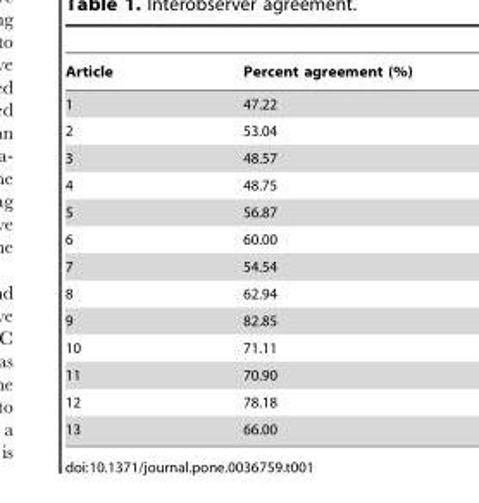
<table><thead><tr><td>Article</td><td>Percent agreement (%)</td></tr></thead><tbody><tr><td>1</td><td>47.22</td></tr><tr><td>2</td><td>53.04</td></tr><tr><td>3</td><td>48.57</td></tr><tr><td>4</td><td>48.75</td></tr><tr><td>5</td><td>56.87</td></tr><tr><td>6</td><td>60.00</td></tr><tr><td>7</td><td>54.54</td></tr><tr><td>8</td><td>62.94</td></tr><tr><td>9</td><td>82.85</td></tr><tr><td>10</td><td>71.11</td></tr><tr><td>11</td><td>70.90</td></tr><tr><td>12</td><td>78.18</td></tr><tr><td>13</td><td>66.00</td></tr></tbody></table>